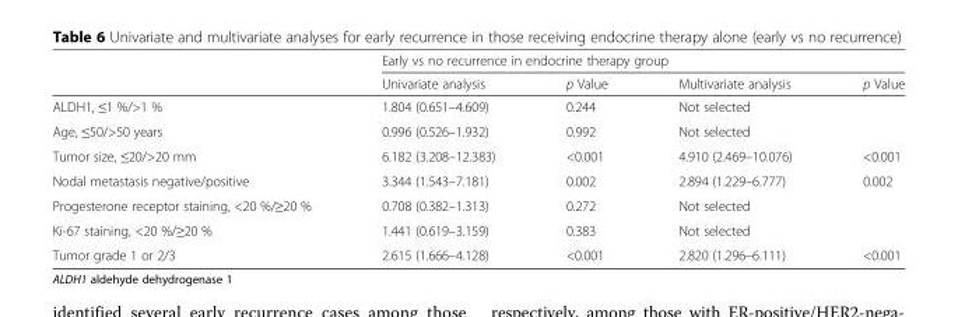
<table><thead><tr><td rowspan="2"></td><td colspan="4">Early vs no recurrence in endocrine therapy group</td></tr><tr><td>Univariate analysis</td><td>p Value</td><td>Multivariate analysis</td><td>p Value</td></tr></thead><tbody><tr><td>ALDH1, ≤1 %/&gt;1 %</td><td>1.804 (0.651–4.609)</td><td>0.244</td><td>Not selected</td><td></td></tr><tr><td>Age, ≤50/&gt;50 years</td><td>0.996 (0.526–1.932)</td><td>0.992</td><td>Not selected</td><td></td></tr><tr><td>Tumor size, ≤20/&gt;20 mm</td><td>6.182 (3.208–12.383)</td><td>&lt;0.001</td><td>4.910 (2.469–10.076)</td><td>&lt;0.001</td></tr><tr><td>Nodal metastasis negative/positive</td><td>3.344 (1.543–7.181)</td><td>0.002</td><td>2.894 (1.229–6.777)</td><td>0.002</td></tr><tr><td>Progesterone receptor staining, &lt;20 %/≥20 %</td><td>0.708 (0.382–1.313)</td><td>0.272</td><td>Not selected</td><td></td></tr><tr><td>Ki-67 staining, &lt;20 %/≥20 %</td><td>1.441 (0.619–3.159)</td><td>0.383</td><td>Not selected</td><td></td></tr><tr><td>Tumor grade 1 or 2/3</td><td>2.615 (1.666–4.128)</td><td>&lt;0.001</td><td>2.820 (1.296–6.111)</td><td>&lt;0.001</td></tr></tbody></table>